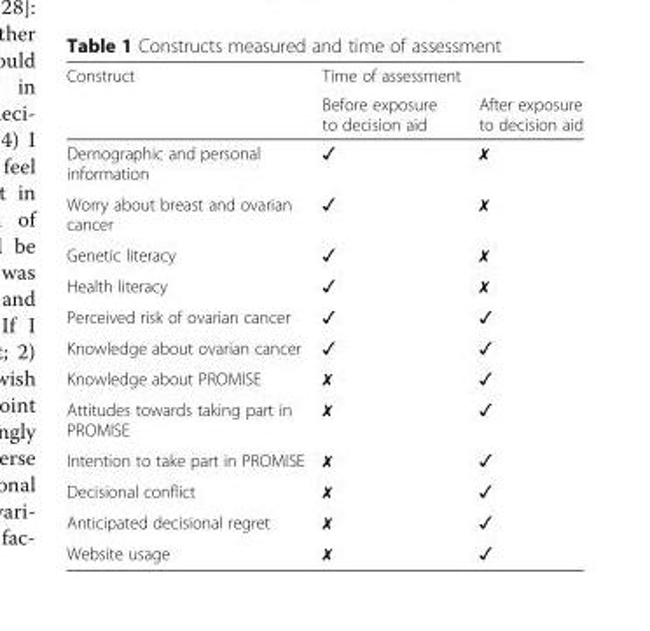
<table><thead><tr><td rowspan="2">Construct</td><td rowspan="2">Time of assessment Before exposure to decision aid</td><td rowspan="2">After exposure to decision aid</td></tr><tr></tr></thead><tbody><tr><td>Demographic and personal information</td><td>✓</td><td>✗</td></tr><tr><td>Worry about breast and ovarian cancer</td><td>✓</td><td>✗</td></tr><tr><td>Genetic literacy</td><td>✓</td><td>✗</td></tr><tr><td>Health literacy</td><td>✓</td><td>✗</td></tr><tr><td>Perceived risk of ovarian cancer</td><td>✓</td><td>✓</td></tr><tr><td>Knowledge about ovarian cancer</td><td>✓</td><td>✓</td></tr><tr><td>Knowledge about PROMISE</td><td>✗</td><td>✓</td></tr><tr><td>Attitudes towards taking part in PROMISE</td><td>✗</td><td>✓</td></tr><tr><td>Intention to take part in PROMISE</td><td>✗</td><td>✓</td></tr><tr><td>Decisional conflict</td><td>✗</td><td>✓</td></tr><tr><td>Anticipated decisional regret</td><td>✗</td><td>✓</td></tr><tr><td>Website usage</td><td>✗</td><td>✓</td></tr></tbody></table>